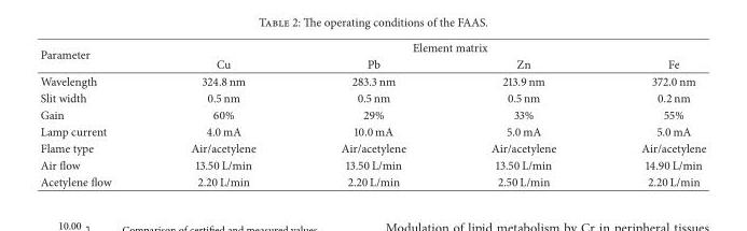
<table><thead><tr><td rowspan="2">Parameter</td><td colspan="4">Element matrix</td></tr><tr><td>Cu</td><td>Pb</td><td>Zn</td><td>Fe</td></tr></thead><tbody><tr><td>Wavelength</td><td>324.8 nm</td><td>283.3 nm</td><td>213.9 nm</td><td>372.0 nm</td></tr><tr><td>Slit width</td><td>0.5 nm</td><td>0.5 nm</td><td>0.5 nm</td><td>0.2 nm</td></tr><tr><td>Gain</td><td>60%</td><td>29%</td><td>33%</td><td>55%</td></tr><tr><td>Lamp current</td><td>4.0 mA</td><td>10.0 mA</td><td>5.0 mA</td><td>5.0 mA</td></tr><tr><td>Flame type</td><td>Air/acetylene</td><td>Air/acetylene</td><td>Air/acetylene</td><td>Air/acetylene</td></tr><tr><td>Air flow</td><td>13.50 L/min</td><td>13.50 L/min</td><td>13.50 L/min</td><td>14.90 L/min</td></tr><tr><td>Acetylene flow</td><td>2.20 L/min</td><td>2.20 L/min</td><td>2.50 L/min</td><td>2.20 L/min</td></tr></tbody></table>